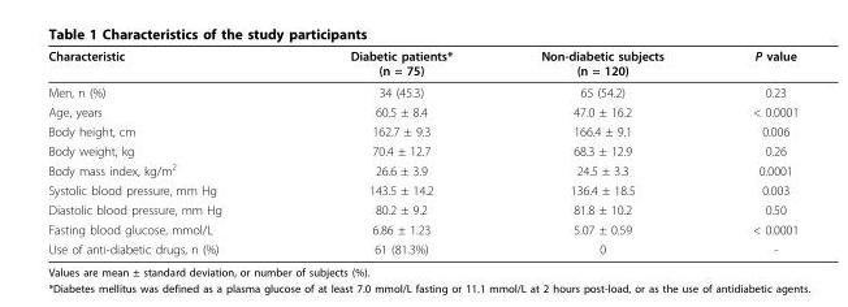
<table><thead><tr><td>Characteristic</td><td>Diabetic patients* (n = 75)</td><td>Non-diabetic subjects (n = 120)</td><td>P value</td></tr></thead><tbody><tr><td>Men, n (%)</td><td>34 (45.3)</td><td>65 (54.2)</td><td>0.23</td></tr><tr><td>Age, years</td><td>60.5 ± 8.4</td><td>47.0 ± 16.2</td><td>&lt; 0.0001</td></tr><tr><td>Body height, cm</td><td>162.7 ± 9.3</td><td>166.4 ± 9.1</td><td>0.006</td></tr><tr><td>Body weight, kg</td><td>70.4 ± 12.7</td><td>68.3 ± 12.9</td><td>0.26</td></tr><tr><td>Body mass index, kg/m<sup>2</sup></td><td>26.6 ± 3.9</td><td>24.5 ± 3.3</td><td>0.0001</td></tr><tr><td>Systolic blood pressure, mm Hg</td><td>143.5 ± 14.2</td><td>136.4 ± 18.5</td><td>0.003</td></tr><tr><td>Diastolic blood pressure, mm Hg</td><td>80.2 ± 9.2</td><td>81.8 ± 10.2</td><td>0.50</td></tr><tr><td>Fasting blood glucose, mmol/L</td><td>6.86 ± 1.23</td><td>5.07 ± 0.59</td><td>&lt; 0.0001</td></tr><tr><td>Use of anti-diabetic drugs, n (%)</td><td>61 (81.3%)</td><td>0</td><td>-</td></tr></tbody></table>